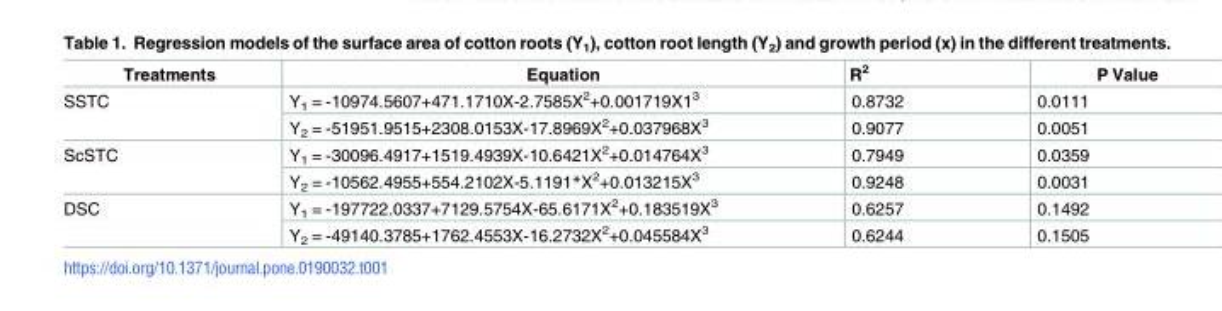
<table><thead><tr><td>Treatments</td><td>Equation</td><td>R<sup>2</sup></td><td>P Value</td></tr></thead><tbody><tr><td rowspan="2">SSTC</td><td>Y<sub>1</sub> = -10974.5607+471.1710X-2.7585X<sup>2</sup>+0.001719X1<sup>3</sup></td><td>0.8732</td><td>0.0111</td></tr><tr><td>Y<sub>2</sub> = -51951.9515+2308.0153X-17.8969X<sup>2</sup>+0.037968X<sup>3</sup></td><td>0.9077</td><td>0.0051</td></tr><tr><td rowspan="2">ScSTC</td><td>Y<sub>1</sub> = -30096.4917+1519.4939X-10.6421X<sup>2</sup>+0.014764X<sup>3</sup></td><td>0.7949</td><td>0.0359</td></tr><tr><td>Y<sub>2</sub> = -10562.4955+554.2102X-5.1191*X<sup>2</sup>+0.013215X<sup>3</sup></td><td>0.9248</td><td>0.0031</td></tr><tr><td rowspan="2">DSC</td><td>Y<sub>1</sub> = -197722.0337+7129.5754X-65.6171X<sup>2</sup>+0.183519X<sup>3</sup></td><td>0.6257</td><td>0.1492</td></tr><tr><td>Y<sub>2</sub> = -49140.3785+1762.4553X-16.2732X<sup>2</sup>+0.045584X<sup>3</sup></td><td>0.6244</td><td>0.1505</td></tr></tbody></table>